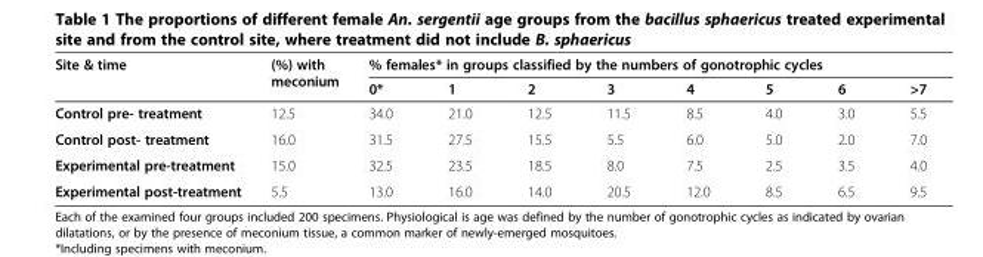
<table><thead><tr><td rowspan="2">Site &amp; time</td><td rowspan="2">(%) with meconium</td><td colspan="8">% females* in groups classified by the numbers of gonotrophic cycles</td></tr><tr><td>0*</td><td>1</td><td>2</td><td>3</td><td>4</td><td>5</td><td>6</td><td>&gt;7</td></tr></thead><tbody><tr><td>Control pre- treatment</td><td>12.5</td><td>34.0</td><td>21.0</td><td>12.5</td><td>11.5</td><td>8.5</td><td>4.0</td><td>3.0</td><td>5.5</td></tr><tr><td>Control post- treatment</td><td>16.0</td><td>31.5</td><td>27.5</td><td>15.5</td><td>5.5</td><td>6.0</td><td>5.0</td><td>2.0</td><td>7.0</td></tr><tr><td>Experimental pre-treatment</td><td>15.0</td><td>32.5</td><td>23.5</td><td>18.5</td><td>8.0</td><td>7.5</td><td>2.5</td><td>3.5</td><td>4.0</td></tr><tr><td>Experimental post-treatment</td><td>5.5</td><td>13.0</td><td>16.0</td><td>14.0</td><td>20.5</td><td>12.0</td><td>8.5</td><td>6.5</td><td>9.5</td></tr></tbody></table>